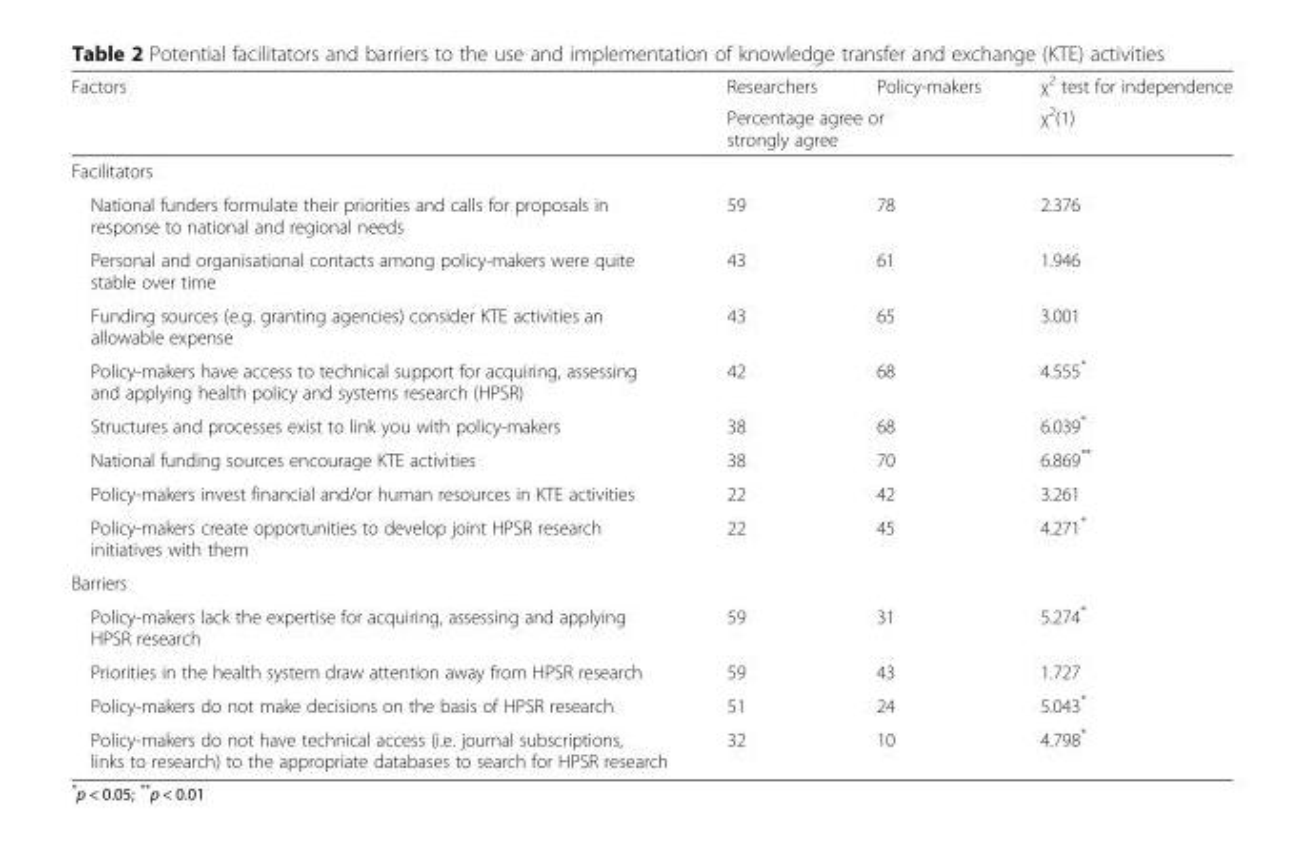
<table><thead><tr><td rowspan="2">Factors</td><td>Researchers</td><td>Policy-makers</td><td rowspan="2">χ<sup>2</sup> test for independence χ<sup>2</sup>(1)</td></tr><tr><td colspan="2">Percentage agree or strongly agree</td></tr></thead><tbody><tr><td colspan="4">Facilitators</td></tr><tr><td>National funders formulate their priorities and calls for proposals in response to national and regional needs</td><td>59</td><td>78</td><td>2.376</td></tr><tr><td>Personal and organisational contacts among policy-makers were quite stable over time</td><td>43</td><td>61</td><td>1.946</td></tr><tr><td>Funding sources (e.g. granting agencies) consider KTE activities an allowable expense</td><td>43</td><td>65</td><td>3.001</td></tr><tr><td>Policy-makers have access to technical support for acquiring, assessing and applying health policy and systems research (HPSR)</td><td>42</td><td>68</td><td>4.555*</td></tr><tr><td>Structures and processes exist to link you with policy-makers</td><td>38</td><td>68</td><td>6.039*</td></tr><tr><td>National funding sources encourage KTE activities</td><td>38</td><td>70</td><td>6.869**</td></tr><tr><td>Policy-makers invest financial and/or human resources in KTE activities</td><td>22</td><td>42</td><td>3.261</td></tr><tr><td>Policy-makers create opportunities to develop joint HPSR research initiatives with them</td><td>22</td><td>45</td><td>4.271*</td></tr><tr><td colspan="4">Barriers</td></tr><tr><td>Policy-makers lack the expertise for acquiring, assessing and applying HPSR research</td><td>59</td><td>31</td><td>5.274*</td></tr><tr><td>Priorities in the health system draw attention away from HPSR research</td><td>59</td><td>43</td><td>1.727</td></tr><tr><td>Policy-makers do not make decisions on the basis of HPSR research</td><td>51</td><td>24</td><td>5.043*</td></tr><tr><td>Policy-makers do not have technical access (i.e. journal subscriptions, links to research) to the appropriate databases to search for HPSR research</td><td>32</td><td>10</td><td>4.798*</td></tr></tbody></table>